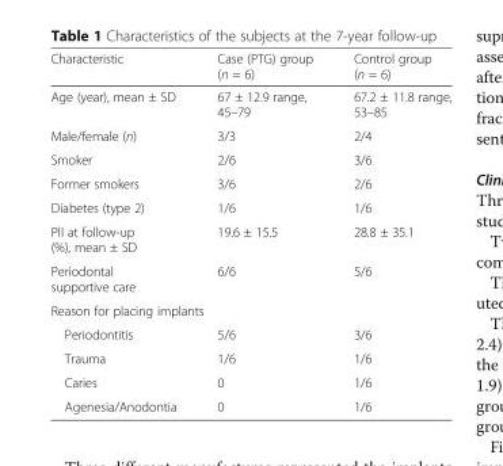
<table><thead><tr><td>Characteristic</td><td>Case (PTG) group (n = 6)</td><td>Control group (n = 6)</td></tr></thead><tbody><tr><td>Age (year), mean ± SD</td><td>67 ± 12.9 range, 45–79</td><td>67.2 ± 11.8 range, 53–85</td></tr><tr><td>Male/female (n)</td><td>3/3</td><td>2/4</td></tr><tr><td>Smoker</td><td>2/6</td><td>3/6</td></tr><tr><td>Former smokers</td><td>3/6</td><td>2/6</td></tr><tr><td>Diabetes (type 2)</td><td>1/6</td><td>1/6</td></tr><tr><td>PlI at follow-up (%), mean ± SD</td><td>19.6 ± 15.5</td><td>28.8 ± 35.1</td></tr><tr><td>Periodontal supportive care</td><td>6/6</td><td>5/6</td></tr><tr><td colspan="3">Reason for placing implants</td></tr><tr><td>Periodontitis</td><td>5/6</td><td>3/6</td></tr><tr><td>Trauma</td><td>1/6</td><td>1/6</td></tr><tr><td>Caries</td><td>0</td><td>1/6</td></tr><tr><td>Agenesia/Anodontia</td><td>0</td><td>1/6</td></tr></tbody></table>